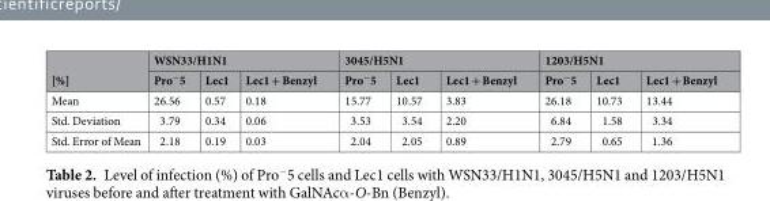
<table><thead><tr><td rowspan="2">[%]</td><td colspan="3">WSN33/H1N1</td><td colspan="3">3045/H5N1</td><td colspan="3">1203/H5N1</td></tr><tr><td>Pro<sup>−</sup>5</td><td>Lec1</td><td>Lec1 + Benzyl</td><td>Pro<sup>−</sup>5</td><td>Lec1</td><td>Lec1 + Benzyl</td><td>Pro<sup>−</sup>5</td><td>Lec1</td><td>Lec1 + Benzyl</td></tr></thead><tbody><tr><td>Mean</td><td>26.56</td><td>0.57</td><td>0.18</td><td>15.77</td><td>10.57</td><td>3.83</td><td>26.18</td><td>10.73</td><td>13.44</td></tr><tr><td>Std. Deviation</td><td>3.79</td><td>0.34</td><td>0.06</td><td>3.53</td><td>3.54</td><td>2.20</td><td>6.84</td><td>1.58</td><td>3.34</td></tr><tr><td>Std. Error of Mean</td><td>2.18</td><td>0.19</td><td>0.03</td><td>2.04</td><td>2.05</td><td>0.89</td><td>2.79</td><td>0.65</td><td>1.36</td></tr></tbody></table>